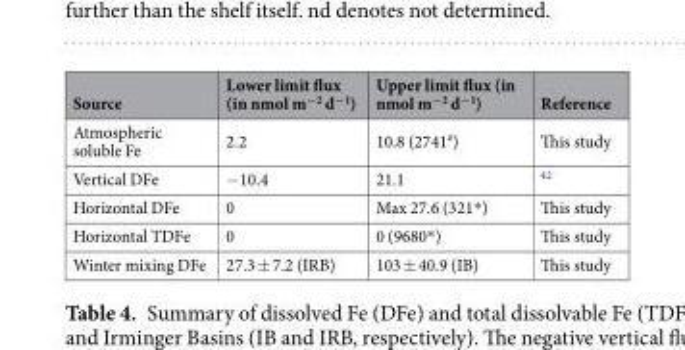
<table><thead><tr><td>Source</td><td>Lower limit flux (in nmol m<sup>−2</sup> d<sup>−1</sup>)</td><td>Upper limit flux (in nmol m<sup>−2</sup> d<sup>−1</sup>)</td><td>Reference</td></tr></thead><tbody><tr><td>Atmospheric soluble Fe</td><td>2.2</td><td>10.8 (2741<sup>#</sup>)</td><td>This study</td></tr><tr><td>Vertical DFe</td><td>−10.4</td><td>21.1</td><td><sup>42</sup></td></tr><tr><td>Horizontal DFe</td><td>0</td><td>Max 27.6 (321*)</td><td>This study</td></tr><tr><td>Horizontal TDFe</td><td>0</td><td>0 (9680*)</td><td>This study</td></tr><tr><td>Winter mixing DFe</td><td>27.3 ± 7.2 (IRB)</td><td>103 ± 40.9 (IB)</td><td>This study</td></tr></tbody></table>